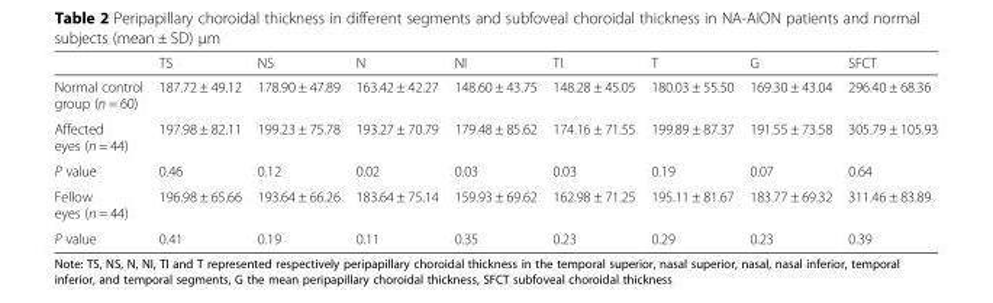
<table><thead><tr><td></td><td>TS</td><td>NS</td><td>N</td><td>NI</td><td>TI</td><td>T</td><td>G</td><td>SFCT</td></tr></thead><tbody><tr><td>Normal control group (n = 60)</td><td>187.72 ± 49.12</td><td>178.90 ± 47.89</td><td>163.42 ± 42.27</td><td>148.60 ± 43.75</td><td>148.28 ± 45.05</td><td>180.03 ± 55.50</td><td>169.30 ± 43.04</td><td>296.40 ± 68.36</td></tr><tr><td>Affected eyes (n = 44)</td><td>197.98 ± 82.11</td><td>199.23 ± 75.78</td><td>193.27 ± 70.79</td><td>179.48 ± 85.62</td><td>174.16 ± 71.55</td><td>199.89 ± 87.37</td><td>191.55 ± 73.58</td><td>305.79 ± 105.93</td></tr><tr><td>P value</td><td>0.46</td><td>0.12</td><td>0.02</td><td>0.03</td><td>0.03</td><td>0.19</td><td>0.07</td><td>0.64</td></tr><tr><td>Fellow eyes (n = 44)</td><td>196.98 ± 65.66</td><td>193.64 ± 66.26</td><td>183.64 ± 75.14</td><td>159.93 ± 69.62</td><td>162.98 ± 71.25</td><td>195.11 ± 81.67</td><td>183.77 ± 69.32</td><td>311.46 ± 83.89</td></tr><tr><td>P value</td><td>0.41</td><td>0.19</td><td>0.11</td><td>0.35</td><td>0.23</td><td>0.29</td><td>0.23</td><td>0.39</td></tr></tbody></table>